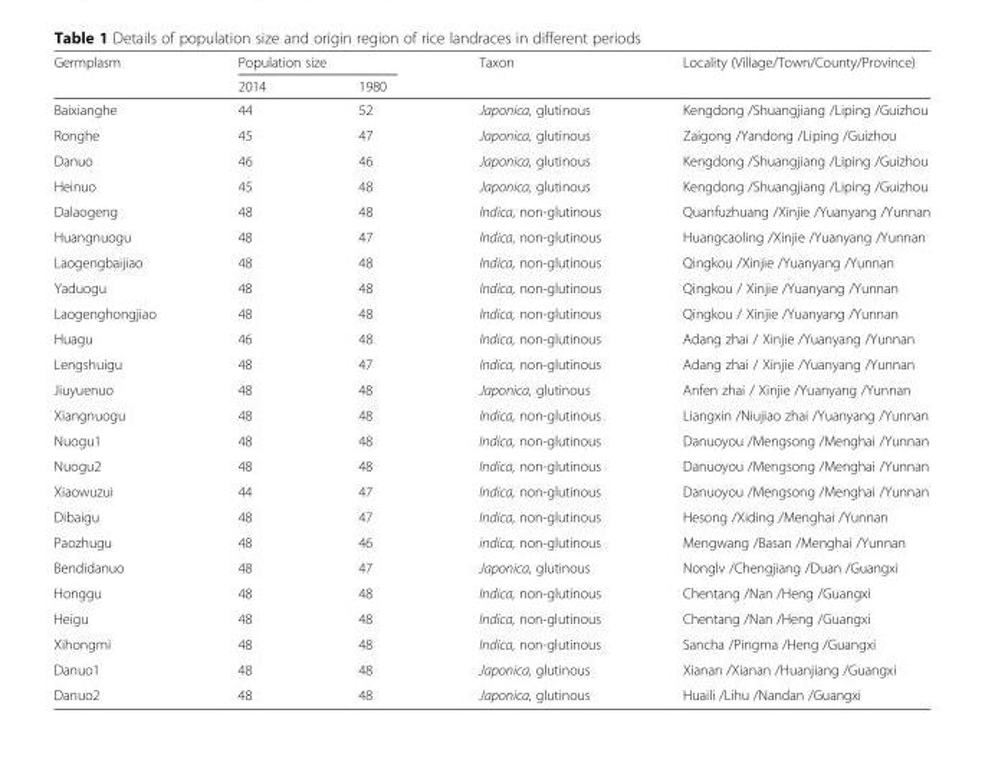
<table><thead><tr><td rowspan="2">Germplasm</td><td colspan="2">Population size</td><td rowspan="2">Taxon</td><td rowspan="2">Locality (Village/Town/County/Province)</td></tr><tr><td>2014</td><td>1980</td></tr></thead><tbody><tr><td>Baixianghe</td><td>44</td><td>52</td><td>Japonica, glutinous</td><td>Kengdong /Shuangjiang /Liping /Guizhou</td></tr><tr><td>Ronghe</td><td>45</td><td>47</td><td>Japonica, glutinous</td><td>Zaigong /Yandong /Liping /Guizhou</td></tr><tr><td>Danuo</td><td>46</td><td>46</td><td>Japonica, glutinous</td><td>Kengdong /Shuangjiang /Liping /Guizhou</td></tr><tr><td>Heinuo</td><td>45</td><td>48</td><td>Japonica, glutinous</td><td>Kengdong /Shuangjiang /Liping /Guizhou</td></tr><tr><td>Dalaogeng</td><td>48</td><td>48</td><td>Indica, non-glutinous</td><td>Quanfuzhuang /Xinjie /Yuanyang /Yunnan</td></tr><tr><td>Huangnuogu</td><td>48</td><td>47</td><td>Indica, non-glutinous</td><td>Huangcaoling /Xinjie /Yuanyang /Yunnan</td></tr><tr><td>Laogengbaijiao</td><td>48</td><td>48</td><td>Indica, non-glutinous</td><td>Qingkou /Xinjie /Yuanyang /Yunnan</td></tr><tr><td>Yaduogu</td><td>48</td><td>48</td><td>Indica, non-glutinous</td><td>Qingkou / Xinjie /Yuanyang /Yunnan</td></tr><tr><td>Laogenghongjiao</td><td>48</td><td>48</td><td>Indica, non-glutinous</td><td>Qingkou / Xinjie /Yuanyang /Yunnan</td></tr><tr><td>Huagu</td><td>46</td><td>48</td><td>Indica, non-glutinous</td><td>Adang zhai / Xinjie /Yuanyang /Yunnan</td></tr><tr><td>Lengshuigu</td><td>48</td><td>47</td><td>Indica, non-glutinous</td><td>Adang zhai / Xinjie /Yuanyang /Yunnan</td></tr><tr><td>Jiuyuenuo</td><td>48</td><td>48</td><td>Japonica, glutinous</td><td>Anfen zhai / Xinjie /Yuanyang /Yunnan</td></tr><tr><td>Xiangnuogu</td><td>48</td><td>48</td><td>Indica, non-glutinous</td><td>Liangxin /Niujiao zhai /Yuanyang /Yunnan</td></tr><tr><td>Nuogu1</td><td>48</td><td>48</td><td>Indica, non-glutinous</td><td>Danuoyou /Mengsong /Menghai /Yunnan</td></tr><tr><td>Nuogu2</td><td>48</td><td>48</td><td>Indica, non-glutinous</td><td>Danuoyou /Mengsong /Menghai /Yunnan</td></tr><tr><td>Xiaowuzui</td><td>44</td><td>47</td><td>Indica, non-glutinous</td><td>Danuoyou /Mengsong /Menghai /Yunnan</td></tr><tr><td>Dibaigu</td><td>48</td><td>47</td><td>Indica, non-glutinous</td><td>Hesong /Xiding /Menghai /Yunnan</td></tr><tr><td>Paozhugu</td><td>48</td><td>46</td><td>indica, non-glutinous</td><td>Mengwang /Basan /Menghai /Yunnan</td></tr><tr><td>Bendidanuo</td><td>48</td><td>47</td><td>Japonica, glutinous</td><td>Nonglv /Chengjiang /Duan /Guangxi</td></tr><tr><td>Honggu</td><td>48</td><td>48</td><td>Indica, non-glutinous</td><td>Chentang /Nan /Heng /Guangxi</td></tr><tr><td>Heigu</td><td>48</td><td>48</td><td>Indica, non-glutinous</td><td>Chentang /Nan /Heng /Guangxi</td></tr><tr><td>Xihongmi</td><td>48</td><td>48</td><td>Indica, non-glutinous</td><td>Sancha /Pingma /Heng /Guangxi</td></tr><tr><td>Danuo1</td><td>48</td><td>48</td><td>Japonica, glutinous</td><td>Xianan /Xianan /Huanjiang /Guangxi</td></tr><tr><td>Danuo2</td><td>48</td><td>48</td><td>Japonica, glutinous</td><td>Huaili /Lihu /Nandan /Guangxi</td></tr></tbody></table>